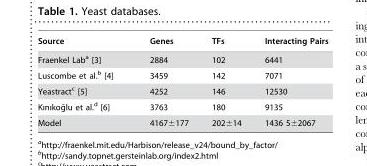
<table><thead><tr><td>Source</td><td>Genes</td><td>TFs</td><td>Interacting Pairs</td></tr></thead><tbody><tr><td>Fraenkel Lab<sup>a</sup> [3]</td><td>2884</td><td>102</td><td>6441</td></tr><tr><td>Luscombe et al.<sup>b</sup> [4]</td><td>3459</td><td>142</td><td>7071</td></tr><tr><td>Yeastract<sup>c</sup> [5]</td><td>4252</td><td>146</td><td>12530</td></tr><tr><td>Kınıkog˘lu et al.d [6]</td><td>3763</td><td>180</td><td>9135</td></tr><tr><td>Model</td><td>4167±177</td><td>202±14</td><td>1436 5±2067</td></tr></tbody></table>